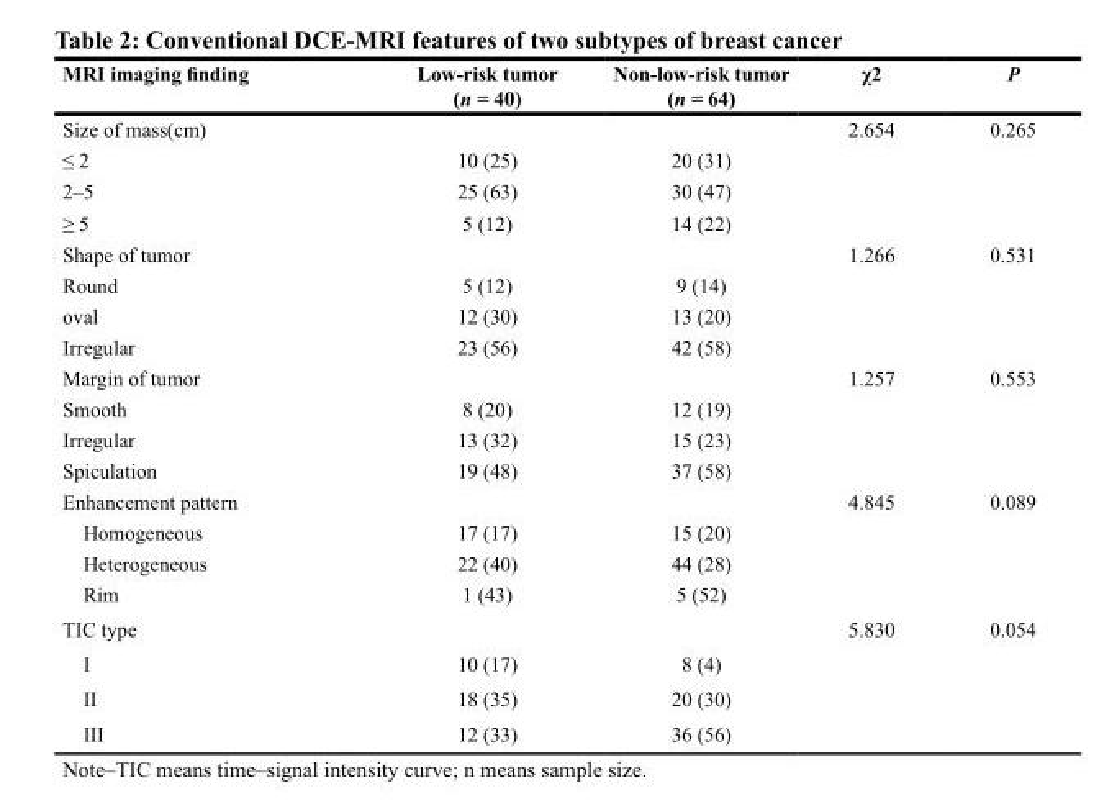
<table><thead><tr><td>MRI imaging finding</td><td>Low-risk tumor (n = 40)</td><td>Non-low-risk tumor (n = 64)</td><td>χ2</td><td>P</td></tr></thead><tbody><tr><td>Size of mass(cm)</td><td></td><td></td><td>2.654</td><td>0.265</td></tr><tr><td>≤ 2</td><td>10 (25)</td><td>20 (31)</td><td></td><td></td></tr><tr><td>2–5</td><td>25 (63)</td><td>30 (47)</td><td></td><td></td></tr><tr><td>≥ 5</td><td>5 (12)</td><td>14 (22)</td><td></td><td></td></tr><tr><td>Shape of tumor</td><td></td><td></td><td>1.266</td><td>0.531</td></tr><tr><td>Round</td><td>5 (12)</td><td>9 (14)</td><td></td><td></td></tr><tr><td>oval</td><td>12 (30)</td><td>13 (20)</td><td></td><td></td></tr><tr><td>Irregular</td><td>23 (56)</td><td>42 (58)</td><td></td><td></td></tr><tr><td>Margin of tumor</td><td></td><td></td><td>1.257</td><td>0.553</td></tr><tr><td>Smooth</td><td>8 (20)</td><td>12 (19)</td><td></td><td></td></tr><tr><td>Irregular</td><td>13 (32)</td><td>15 (23)</td><td></td><td></td></tr><tr><td>Spiculation</td><td>19 (48)</td><td>37 (58)</td><td></td><td></td></tr><tr><td>Enhancement pattern</td><td></td><td></td><td>4.845</td><td>0.089</td></tr><tr><td>Homogeneous</td><td>17 (17)</td><td>15 (20)</td><td></td><td></td></tr><tr><td>Heterogeneous</td><td>22 (40)</td><td>44 (28)</td><td></td><td></td></tr><tr><td>Rim</td><td>1 (43)</td><td>5 (52)</td><td></td><td></td></tr><tr><td>TIC type</td><td></td><td></td><td>5.830</td><td>0.054</td></tr><tr><td>I</td><td>10 (17)</td><td>8 (4)</td><td></td><td></td></tr><tr><td>II</td><td>18 (35)</td><td>20 (30)</td><td></td><td></td></tr><tr><td>III</td><td>12 (33)</td><td>36 (56)</td><td></td><td></td></tr></tbody></table>